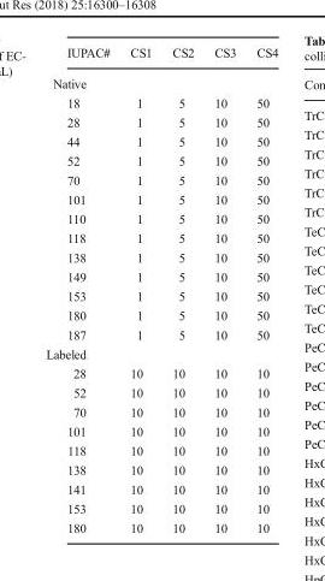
<table><thead><tr><td>IUPAC#</td><td>CS1</td><td>CS2</td><td>CS3</td><td>CS4</td></tr></thead><tbody><tr><td colspan="5">Native</td></tr><tr><td>18</td><td>1</td><td>5</td><td>10</td><td>50</td></tr><tr><td>28</td><td>1</td><td>5</td><td>10</td><td>50</td></tr><tr><td>44</td><td>1</td><td>5</td><td>10</td><td>50</td></tr><tr><td>52</td><td>1</td><td>5</td><td>10</td><td>50</td></tr><tr><td>70</td><td>1</td><td>5</td><td>10</td><td>50</td></tr><tr><td>101</td><td>1</td><td>5</td><td>10</td><td>50</td></tr><tr><td>110</td><td>1</td><td>5</td><td>10</td><td>50</td></tr><tr><td>118</td><td>1</td><td>5</td><td>10</td><td>50</td></tr><tr><td>138</td><td>1</td><td>5</td><td>10</td><td>50</td></tr><tr><td>149</td><td>1</td><td>5</td><td>10</td><td>50</td></tr><tr><td>153</td><td>1</td><td>5</td><td>10</td><td>50</td></tr><tr><td>180</td><td>1</td><td>5</td><td>10</td><td>50</td></tr><tr><td>187</td><td>1</td><td>5</td><td>10</td><td>50</td></tr><tr><td colspan="5">Labeled</td></tr><tr><td>28</td><td>10</td><td>10</td><td>10</td><td>10</td></tr><tr><td>52</td><td>10</td><td>10</td><td>10</td><td>10</td></tr><tr><td>70</td><td>10</td><td>10</td><td>10</td><td>10</td></tr><tr><td>101</td><td>10</td><td>10</td><td>10</td><td>10</td></tr><tr><td>118</td><td>10</td><td>10</td><td>10</td><td>10</td></tr><tr><td>138</td><td>10</td><td>10</td><td>10</td><td>10</td></tr><tr><td>141</td><td>10</td><td>10</td><td>10</td><td>10</td></tr><tr><td>153</td><td>10</td><td>10</td><td>10</td><td>10</td></tr><tr><td>180</td><td>10</td><td>10</td><td>10</td><td>10</td></tr></tbody></table>